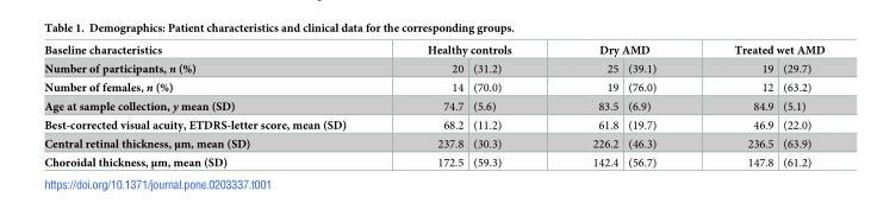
<table><thead><tr><td rowspan="2">Baseline characteristics Number of participants, n (%)</td><td colspan="2">Healthy controls</td><td colspan="2">Dry AMD</td><td colspan="2">Treated wet AMD</td></tr><tr><td>20</td><td>(31.2)</td><td>25</td><td>(39.1)</td><td>19</td><td>(29.7)</td></tr></thead><tbody><tr><td>Number of females, n (%)</td><td>14</td><td>(70.0)</td><td>19</td><td>(76.0)</td><td>12</td><td>(63.2)</td></tr><tr><td>Age at sample collection, y mean (SD)</td><td>74.7</td><td>(5.6)</td><td>83.5</td><td>(6.9)</td><td>84.9</td><td>(5.1)</td></tr><tr><td>Best-corrected visual acuity, ETDRS-letter score, mean (SD)</td><td>68.2</td><td>(11.2)</td><td>61.8</td><td>(19.7)</td><td>46.9</td><td>(22.0)</td></tr><tr><td>Central retinal thickness, μm, mean (SD)</td><td>237.8</td><td>(30.3)</td><td>226.2</td><td>(46.3)</td><td>236.5</td><td>(63.9)</td></tr><tr><td>Choroidal thickness, μm, mean (SD)</td><td>172.5</td><td>(59.3)</td><td>142.4</td><td>(56.7)</td><td>147.8</td><td>(61.2)</td></tr></tbody></table>